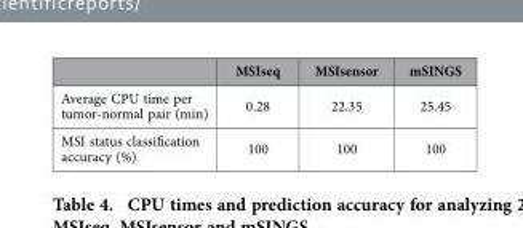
<table><thead><tr><td></td><td>MSIseq</td><td>MSIsensor</td><td>mSINGS</td></tr></thead><tbody><tr><td>Average CPU time per tumor-normal pair (min)</td><td>0.28</td><td>22.35</td><td>25.45</td></tr><tr><td>MSI status classification accuracy (%)</td><td>100</td><td>100</td><td>100</td></tr></tbody></table>